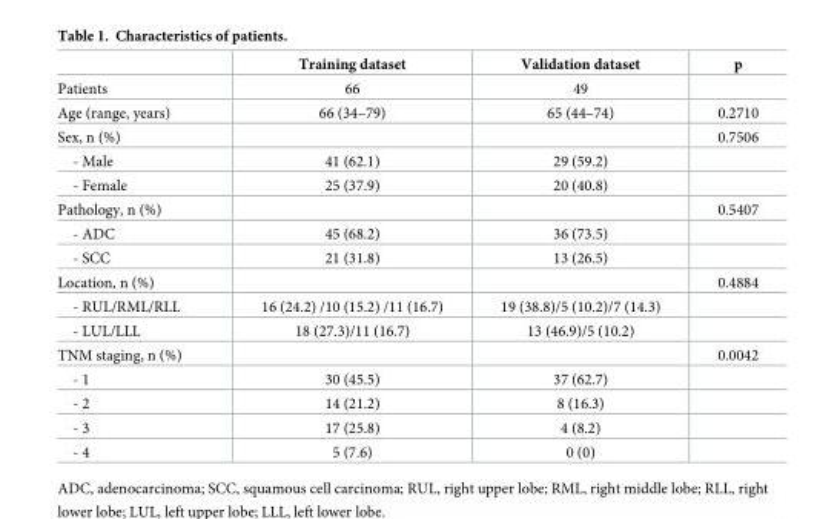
<table><thead><tr><td></td><td>Training dataset</td><td>Validation dataset</td><td>p</td></tr></thead><tbody><tr><td>Patients</td><td>66</td><td>49</td><td></td></tr><tr><td>Age (range, years)</td><td>66 (34–79)</td><td>65 (44–74)</td><td>0.2710</td></tr><tr><td>Sex, n (%)</td><td></td><td></td><td>0.7506</td></tr><tr><td>- Male</td><td>41 (62.1)</td><td>29 (59.2)</td><td></td></tr><tr><td>- Female</td><td>25 (37.9)</td><td>20 (40.8)</td><td></td></tr><tr><td>Pathology, n (%)</td><td></td><td></td><td>0.5407</td></tr><tr><td>- ADC</td><td>45 (68.2)</td><td>36 (73.5)</td><td></td></tr><tr><td>- SCC</td><td>21 (31.8)</td><td>13 (26.5)</td><td></td></tr><tr><td>Location, n (%)</td><td></td><td></td><td>0.4884</td></tr><tr><td>- RUL/RML/RLL</td><td>16 (24.2) /10 (15.2) /11 (16.7)</td><td>19 (38.8)/5 (10.2)/7 (14.3)</td><td></td></tr><tr><td>- LUL/LLL</td><td>18 (27.3)/11 (16.7)</td><td>13 (46.9)/5 (10.2)</td><td></td></tr><tr><td>TNM staging, n (%)</td><td></td><td></td><td>0.0042</td></tr><tr><td>- 1</td><td>30 (45.5)</td><td>37 (62.7)</td><td></td></tr><tr><td>- 2</td><td>14 (21.2)</td><td>8 (16.3)</td><td></td></tr><tr><td>- 3</td><td>17 (25.8)</td><td>4 (8.2)</td><td></td></tr><tr><td>- 4</td><td>5 (7.6)</td><td>0 (0)</td><td></td></tr></tbody></table>